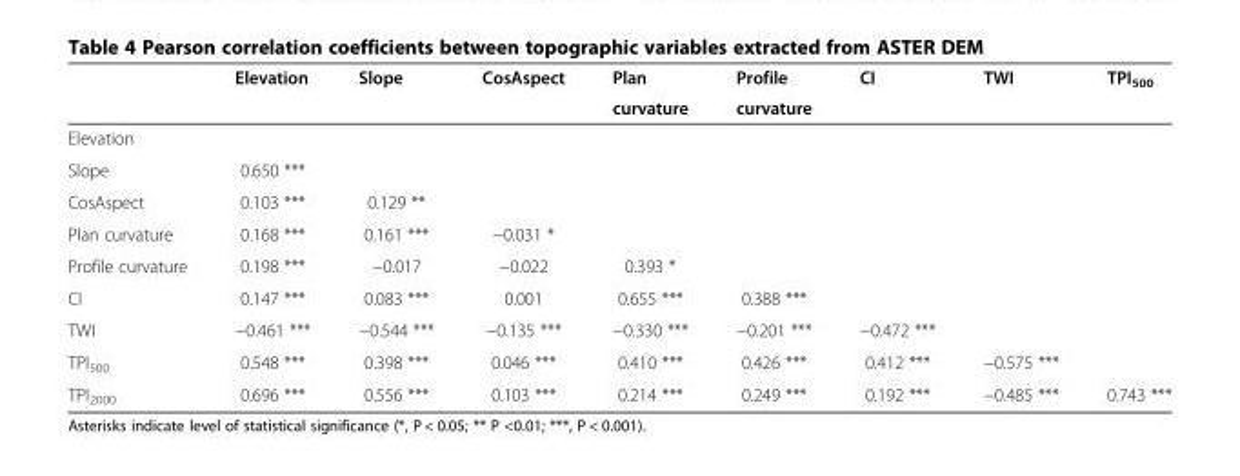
<table><thead><tr><td rowspan="2"></td><td rowspan="2">Elevation</td><td rowspan="2">Slope</td><td rowspan="2">CosAspect</td><td rowspan="2">Plan curvature</td><td rowspan="2">Profile curvature</td><td rowspan="2">CI</td><td rowspan="2">TWI</td><td rowspan="2">TPI500</td></tr><tr></tr></thead><tbody><tr><td colspan="9">Elevation</td></tr><tr><td>Slope</td><td>0.650 ***</td><td></td><td></td><td></td><td></td><td></td><td></td><td></td></tr><tr><td>CosAspect</td><td>0.103 ***</td><td>0.129 **</td><td></td><td></td><td></td><td></td><td></td><td></td></tr><tr><td>Plan curvature</td><td>0.168 ***</td><td>0.161 ***</td><td>−0.031 *</td><td></td><td></td><td></td><td></td><td></td></tr><tr><td>Profile curvature</td><td>0.198 ***</td><td>−0.017</td><td>−0.022</td><td>0.393 *</td><td></td><td></td><td></td><td></td></tr><tr><td>CI</td><td>0.147 ***</td><td>0.083 ***</td><td>0.001</td><td>0.655 ***</td><td>0.388 ***</td><td></td><td></td><td></td></tr><tr><td>TWI</td><td>−0.461 ***</td><td>−0.544 ***</td><td>−0.135 ***</td><td>−0.330 ***</td><td>−0.201 ***</td><td>−0.472 ***</td><td></td><td></td></tr><tr><td>TPI<sub>500</sub></td><td>0.548 ***</td><td>0.398 ***</td><td>0.046 ***</td><td>0.410 ***</td><td>0.426 ***</td><td>0.412 ***</td><td>−0.575 ***</td><td></td></tr><tr><td>TPI<sub>2000</sub></td><td>0.696 ***</td><td>0.556 ***</td><td>0.103 ***</td><td>0.214 ***</td><td>0.249 ***</td><td>0.192 ***</td><td>−0.485 ***</td><td>0.743 ***</td></tr></tbody></table>